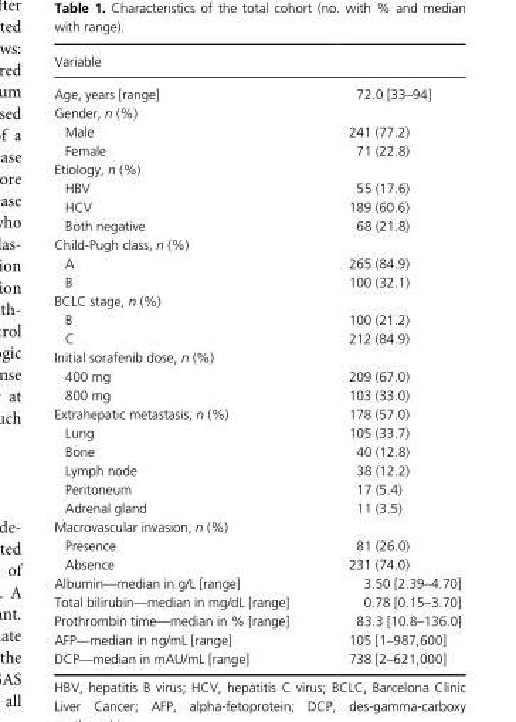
<table><thead><tr><td>Variable</td><td></td></tr></thead><tbody><tr><td>Age, years [range]</td><td>72.0 [33–94]</td></tr><tr><td colspan="2">Gender, n (%)</td></tr><tr><td>Male</td><td>241 (77.2)</td></tr><tr><td>Female</td><td>71 (22.8)</td></tr><tr><td colspan="2">Etiology, n (%)</td></tr><tr><td>HBV</td><td>55 (17.6)</td></tr><tr><td>HCV</td><td>189 (60.6)</td></tr><tr><td>Both negative</td><td>68 (21.8)</td></tr><tr><td colspan="2">Child- Pugh class, n (%)</td></tr><tr><td>A</td><td>265 (84.9)</td></tr><tr><td>B</td><td>100 (32.1)</td></tr><tr><td colspan="2">BCLC stage, n (%)</td></tr><tr><td>B</td><td>100 (21.2)</td></tr><tr><td>C</td><td>212 (84.9)</td></tr><tr><td colspan="2">Initial sorafenib dose, n (%)</td></tr><tr><td>400 mg</td><td>209 (67.0)</td></tr><tr><td>800 mg</td><td>103 (33.0)</td></tr><tr><td>Extrahepatic metastasis, n (%)</td><td>178 (57.0)</td></tr><tr><td>Lung</td><td>105 (33.7)</td></tr><tr><td>Bone</td><td>40 (12.8)</td></tr><tr><td>Lymph node</td><td>38 (12.2)</td></tr><tr><td>Peritoneum</td><td>17 (5.4)</td></tr><tr><td>Adrenal gland</td><td>11 (3.5)</td></tr><tr><td colspan="2">Macrovascular invasion, n (%)</td></tr><tr><td>Presence</td><td>81 (26.0)</td></tr><tr><td>Absence</td><td>231 (74.0)</td></tr><tr><td>Albumin—median in g/L [range]</td><td>3.50 [2.39–4.70]</td></tr><tr><td>Total bilirubin—median in mg/dL [range]</td><td>0.78 [0.15–3.70]</td></tr><tr><td>Prothrombin time—median in % [range]</td><td>83.3 [10.8–136.0]</td></tr><tr><td>AFP—median in ng/mL [range]</td><td>105 [1–987,600]</td></tr><tr><td>DCP—median in mAU/mL [range]</td><td>738 [2–621,000]</td></tr></tbody></table>